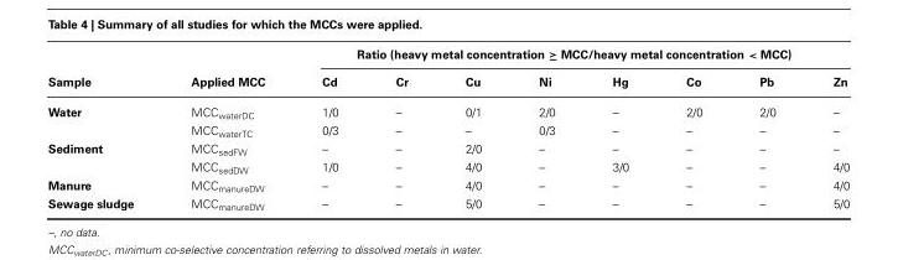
<table><thead><tr><td rowspan="2">Sample</td><td rowspan="2">Applied MCC</td><td colspan="8">Ratio (heavy metal concentration ≥ MCC/heavy metal concentration &lt; MCC)</td></tr><tr><td>Cd</td><td>Cr</td><td>Cu</td><td>Ni</td><td>Hg</td><td>Co</td><td>Pb</td><td>Zn</td></tr></thead><tbody><tr><td rowspan="2">Water</td><td>MCC<sub>waterDC</sub></td><td>1/0</td><td>–</td><td>0/1</td><td>2/0</td><td>–</td><td>2/0</td><td>2/0</td><td>–</td></tr><tr><td>MCC<sub>waterTC</sub></td><td>0/3</td><td>–</td><td>–</td><td>0/3</td><td>–</td><td>–</td><td>–</td><td>–</td></tr><tr><td rowspan="2">Sediment</td><td>MCC<sub>sedFW</sub></td><td>–</td><td>–</td><td>2/0</td><td>–</td><td>–</td><td>–</td><td>–</td><td>–</td></tr><tr><td>MCC<sub>sedDW</sub></td><td>1/0</td><td>–</td><td>4/0</td><td>–</td><td>3/0</td><td>–</td><td>–</td><td>4/0</td></tr><tr><td>Manure</td><td>MCC<sub>manureDW</sub></td><td>–</td><td>–</td><td>4/0</td><td>–</td><td>–</td><td>–</td><td>–</td><td>4/0</td></tr><tr><td>Sewage sludge</td><td>MCC<sub>manureDW</sub></td><td>–</td><td>–</td><td>5/0</td><td>–</td><td>–</td><td>–</td><td>–</td><td>5/0</td></tr></tbody></table>